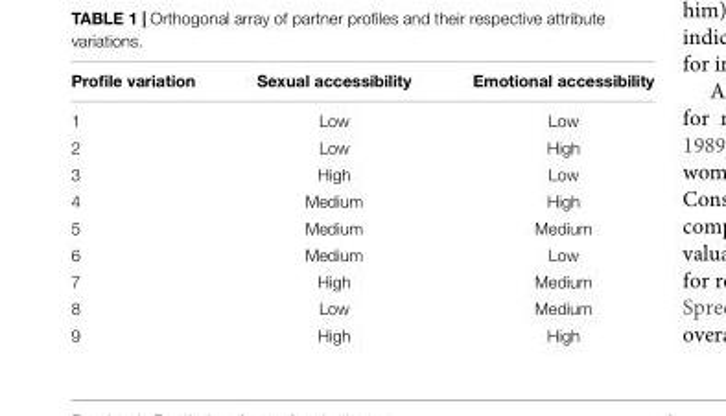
<table><thead><tr><td>Profile variation</td><td>Sexual accessibility</td><td>Emotional accessibility</td></tr></thead><tbody><tr><td>1</td><td>Low</td><td>Low</td></tr><tr><td>2</td><td>Low</td><td>High</td></tr><tr><td>3</td><td>High</td><td>Low</td></tr><tr><td>4</td><td>Medium</td><td>High</td></tr><tr><td>5</td><td>Medium</td><td>Medium</td></tr><tr><td>6</td><td>Medium</td><td>Low</td></tr><tr><td>7</td><td>High</td><td>Medium</td></tr><tr><td>8</td><td>Low</td><td>Medium</td></tr><tr><td>9</td><td>High</td><td>High</td></tr></tbody></table>